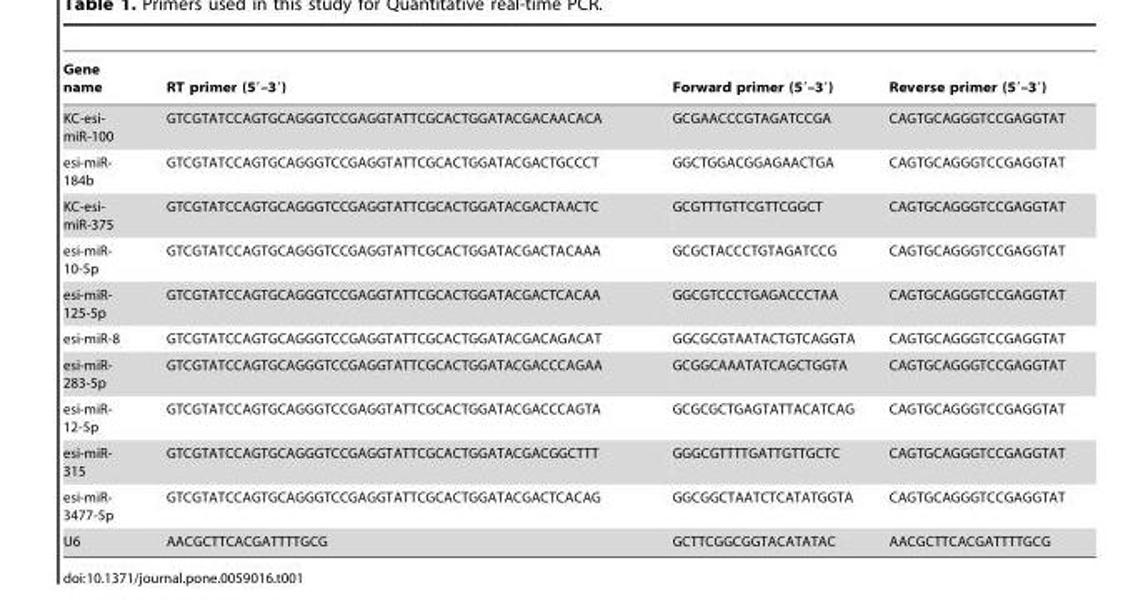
<table><thead><tr><td>Gene name</td><td>RT primer (5′–3′)</td><td>Forward primer (5′–3′)</td><td>Reverse primer (5′–3′)</td></tr></thead><tbody><tr><td>KC-esi- miR-100</td><td>GTCGTATCCAGTGCAGGGTCCGAGGTATTCGCACTGGATACGACAACACA</td><td>GCGAACCCGTAGATCCGA</td><td>CAGTGCAGGGTCCGAGGTAT</td></tr><tr><td>esi-miR- 184b</td><td>GTCGTATCCAGTGCAGGGTCCGAGGTATTCGCACTGGATACGACTGCCCT</td><td>GGCTGGACGGAGAACTGA</td><td>CAGTGCAGGGTCCGAGGTAT</td></tr><tr><td>KC-esi- miR-375</td><td>GTCGTATCCAGTGCAGGGTCCGAGGTATTCGCACTGGATACGACTAACTC</td><td>GCGTTTGTTCGTTCGGCT</td><td>CAGTGCAGGGTCCGAGGTAT</td></tr><tr><td>esi-miR- 10-5p</td><td>GTCGTATCCAGTGCAGGGTCCGAGGTATTCGCACTGGATACGACTACAAA</td><td>GCGCTACCCTGTAGATCCG</td><td>CAGTGCAGGGTCCGAGGTAT</td></tr><tr><td>esi-miR- 125-5p</td><td>GTCGTATCCAGTGCAGGGTCCGAGGTATTCGCACTGGATACGACTCACAA</td><td>GGCGTCCCTGAGACCCTAA</td><td>CAGTGCAGGGTCCGAGGTAT</td></tr><tr><td>esi-miR-8</td><td>GTCGTATCCAGTGCAGGGTCCGAGGTATTCGCACTGGATACGACAGACAT</td><td>GGCGCGTAATACTGTCAGGTA</td><td>CAGTGCAGGGTCCGAGGTAT</td></tr><tr><td>esi-miR- 283-5p</td><td>GTCGTATCCAGTGCAGGGTCCGAGGTATTCGCACTGGATACGACCCAGAA</td><td>GCGGCAAATATCAGCTGGTA</td><td>CAGTGCAGGGTCCGAGGTAT</td></tr><tr><td>esi-miR- 12-5p</td><td>GTCGTATCCAGTGCAGGGTCCGAGGTATTCGCACTGGATACGACCCAGTA</td><td>GCGCGCTGAGTATTACATCAG</td><td>CAGTGCAGGGTCCGAGGTAT</td></tr><tr><td>esi-miR- 315</td><td>GTCGTATCCAGTGCAGGGTCCGAGGTATTCGCACTGGATACGACGGCTTT</td><td>GGGCGTTTTGATTGTTGCTC</td><td>CAGTGCAGGGTCCGAGGTAT</td></tr><tr><td>esi-miR- 3477-5p</td><td>GTCGTATCCAGTGCAGGGTCCGAGGTATTCGCACTGGATACGACTCACAG</td><td>GGCGGCTAATCTCATATGGTA</td><td>CAGTGCAGGGTCCGAGGTAT</td></tr><tr><td>U6</td><td>AACGCTTCACGATTTTGCG</td><td>GCTTCGGCGGTACATATAC</td><td>AACGCTTCACGATTTTGCG</td></tr></tbody></table>